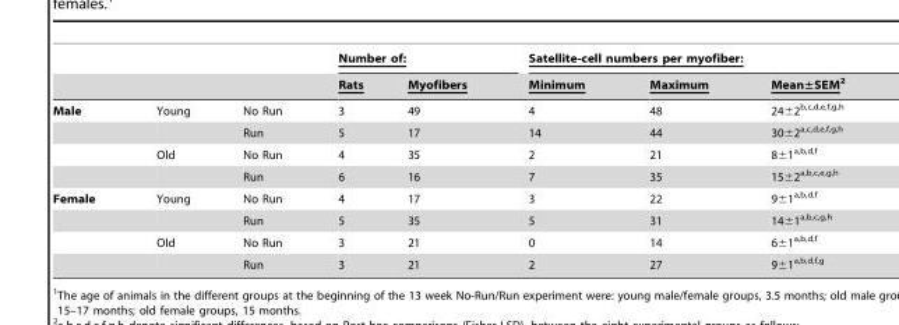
<table><thead><tr><td rowspan="2"></td><td rowspan="2"></td><td rowspan="2"></td><td colspan="2">Number of:</td><td colspan="3">Satellite-cell numbers per myofiber:</td></tr><tr><td>Rats</td><td>Myofibers</td><td>Minimum</td><td>Maximum</td><td>Mean±SEM2</td></tr></thead><tbody><tr><td rowspan="4">Male</td><td>Young</td><td>No Run</td><td>3</td><td>49</td><td>4</td><td>48</td><td>24±2<sup>b,</sup>c<sup>,</sup>d<sup>,</sup>e<sup>,</sup>f<sup>,</sup>g<sup>,</sup>h</td></tr><tr><td></td><td>Run</td><td>5</td><td>17</td><td>14</td><td>44</td><td>30±2<sup>a,</sup>c<sup>,</sup>d<sup>,</sup>e<sup>,</sup>f<sup>,</sup>g<sup>,</sup>h</td></tr><tr><td>Old</td><td>No Run</td><td>4</td><td>35</td><td>2</td><td>21</td><td>8±1<sup>a,</sup>b<sup>,</sup>d<sup>,</sup>f</td></tr><tr><td></td><td>Run</td><td>6</td><td>16</td><td>7</td><td>35</td><td>15±2<sup>a,</sup>b<sup>,</sup>c<sup>,</sup>e<sup>,</sup>g<sup>,</sup>h</td></tr><tr><td rowspan="4">Female</td><td>Young</td><td>No Run</td><td>4</td><td>17</td><td>3</td><td>22</td><td>9±1<sup>a,</sup>b<sup>,</sup>d<sup>,</sup>f</td></tr><tr><td></td><td>Run</td><td>5</td><td>35</td><td>5</td><td>31</td><td>14±1<sup>a,</sup>b<sup>,</sup>c<sup>,</sup>g<sup>,</sup>h</td></tr><tr><td>Old</td><td>No Run</td><td>3</td><td>21</td><td>0</td><td>14</td><td>6±1<sup>a,</sup>b<sup>,</sup>d<sup>,</sup>f</td></tr><tr><td></td><td>Run</td><td>3</td><td>21</td><td>2</td><td>27</td><td>9±1<sup>a,</sup>b<sup>,</sup>d<sup>,</sup>f<sup>,</sup>g</td></tr></tbody></table>